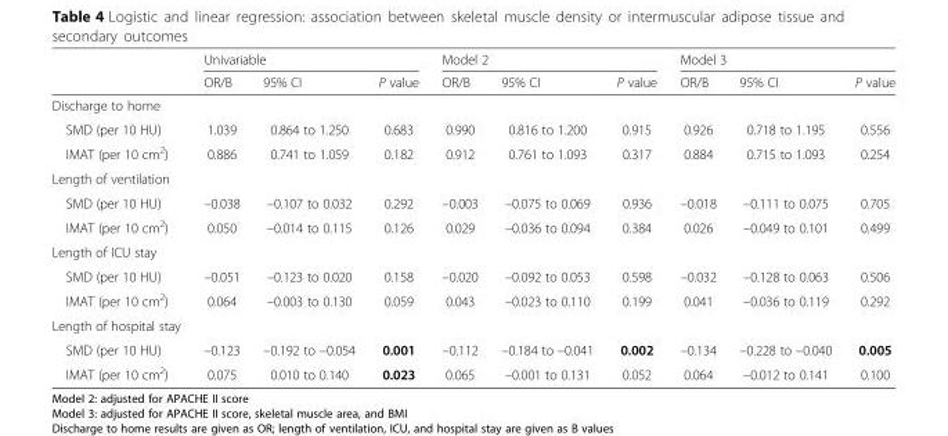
<table><thead><tr><td rowspan="2"></td><td colspan="3">Univariable</td><td colspan="3">Model 2</td><td colspan="3">Model 3</td></tr><tr><td>OR/B</td><td>95% CI</td><td>P value</td><td>OR/B</td><td>95% CI</td><td>P value</td><td>OR/B</td><td>95% CI</td><td>P value</td></tr></thead><tbody><tr><td colspan="10">Discharge to home</td></tr><tr><td>SMD (per 10 HU)</td><td>1.039</td><td>0.864 to 1.250</td><td>0.683</td><td>0.990</td><td>0.816 to 1.200</td><td>0.915</td><td>0.926</td><td>0.718 to 1.195</td><td>0.556</td></tr><tr><td>IMAT (per 10 cm<sup>2</sup>)</td><td>0.886</td><td>0.741 to 1.059</td><td>0.182</td><td>0.912</td><td>0.761 to 1.093</td><td>0.317</td><td>0.884</td><td>0.715 to 1.093</td><td>0.254</td></tr><tr><td colspan="10">Length of ventilation</td></tr><tr><td>SMD (per 10 HU)</td><td>–0.038</td><td>–0.107 to 0.032</td><td>0.292</td><td>–0.003</td><td>–0.075 to 0.069</td><td>0.936</td><td>–0.018</td><td>–0.111 to 0.075</td><td>0.705</td></tr><tr><td>IMAT (per 10 cm<sup>2</sup>)</td><td>0.050</td><td>–0.014 to 0.115</td><td>0.126</td><td>0.029</td><td>–0.036 to 0.094</td><td>0.384</td><td>0.026</td><td>–0.049 to 0.101</td><td>0.499</td></tr><tr><td colspan="10">Length of ICU stay</td></tr><tr><td>SMD (per 10 HU)</td><td>–0.051</td><td>–0.123 to 0.020</td><td>0.158</td><td>–0.020</td><td>–0.092 to 0.053</td><td>0.598</td><td>–0.032</td><td>–0.128 to 0.063</td><td>0.506</td></tr><tr><td>IMAT (per 10 cm<sup>2</sup>)</td><td>0.064</td><td>–0.003 to 0.130</td><td>0.059</td><td>0.043</td><td>–0.023 to 0.110</td><td>0.199</td><td>0.041</td><td>–0.036 to 0.119</td><td>0.292</td></tr><tr><td colspan="10">Length of hospital stay</td></tr><tr><td>SMD (per 10 HU)</td><td>–0.123</td><td>–0.192 to –0.054</td><td>0.001</td><td>–0.112</td><td>–0.184 to –0.041</td><td>0.002</td><td>–0.134</td><td>–0.228 to –0.040</td><td>0.005</td></tr><tr><td>IMAT (per 10 cm<sup>2</sup>)</td><td>0.075</td><td>0.010 to 0.140</td><td>0.023</td><td>0.065</td><td>–0.001 to 0.131</td><td>0.052</td><td>0.064</td><td>–0.012 to 0.141</td><td>0.100</td></tr></tbody></table>